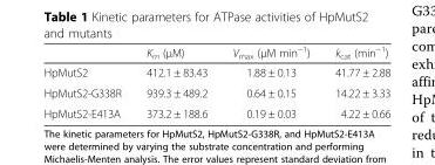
<table><thead><tr><td></td><td>K<sub>m</sub> (μM)</td><td>V<sub>max</sub> (μM min<sup>−1</sup>)</td><td>k<sub>cat</sub> (min<sup>−1</sup>)</td></tr></thead><tbody><tr><td>HpMutS2</td><td>412.1 ± 83.43</td><td>1.88 ± 0.13</td><td>41.77 ± 2.88</td></tr><tr><td>HpMutS2-G338R</td><td>939.3 ± 489.2</td><td>0.64 ± 0.15</td><td>14.22 ± 3.33</td></tr><tr><td>HpMutS2-E413A</td><td>373.2 ± 188.6</td><td>0.19 ± 0.03</td><td>4.22 ± 0.66</td></tr></tbody></table>